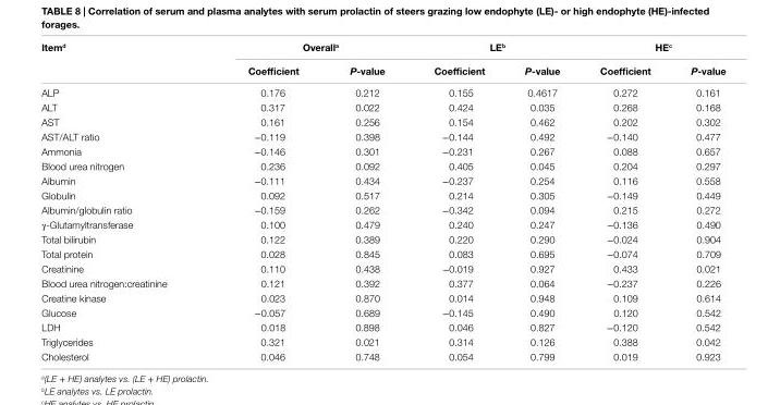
<table><thead><tr><td rowspan="2">item<sup>d</sup></td><td colspan="2">Overall<sup>a</sup></td><td colspan="2">le<sup>b</sup></td><td colspan="2">he<sup>c</sup></td></tr><tr><td>coefficient</td><td>P-value</td><td>coefficient</td><td>P-value</td><td>coefficient</td><td>P-value</td></tr></thead><tbody><tr><td>ALP</td><td>0.176</td><td>0.212</td><td>0.155</td><td>0.4617</td><td>0.272</td><td>0.161</td></tr><tr><td>ALT</td><td>0.317</td><td>0.022</td><td>0.424</td><td>0.035</td><td>0.268</td><td>0.168</td></tr><tr><td>AST</td><td>0.161</td><td>0.256</td><td>0.154</td><td>0.462</td><td>0.202</td><td>0.302</td></tr><tr><td>AST/ALT ratio</td><td>−0.119</td><td>0.398</td><td>−0.144</td><td>0.492</td><td>−0.140</td><td>0.477</td></tr><tr><td>Ammonia</td><td>−0.146</td><td>0.301</td><td>−0.231</td><td>0.267</td><td>0.088</td><td>0.657</td></tr><tr><td>Blood urea nitrogen</td><td>0.236</td><td>0.092</td><td>0.405</td><td>0.045</td><td>0.204</td><td>0.297</td></tr><tr><td>Albumin</td><td>−0.111</td><td>0.434</td><td>−0.237</td><td>0.254</td><td>0.116</td><td>0.558</td></tr><tr><td>Globulin</td><td>0.092</td><td>0.517</td><td>0.214</td><td>0.305</td><td>−0.149</td><td>0.449</td></tr><tr><td>Albumin/globulin ratio</td><td>−0.159</td><td>0.262</td><td>−0.342</td><td>0.094</td><td>0.215</td><td>0.272</td></tr><tr><td>γ-Glutamyltransferase</td><td>0.100</td><td>0.479</td><td>0.240</td><td>0.247</td><td>−0.136</td><td>0.490</td></tr><tr><td>Total bilirubin</td><td>0.122</td><td>0.389</td><td>0.220</td><td>0.290</td><td>−0.024</td><td>0.904</td></tr><tr><td>Total protein</td><td>0.028</td><td>0.845</td><td>0.083</td><td>0.695</td><td>−0.074</td><td>0.709</td></tr><tr><td>Creatinine</td><td>0.110</td><td>0.438</td><td>−0.019</td><td>0.927</td><td>0.433</td><td>0.021</td></tr><tr><td>Blood urea nitrogen:creatinine</td><td>0.121</td><td>0.392</td><td>0.377</td><td>0.064</td><td>−0.237</td><td>0.226</td></tr><tr><td>Creatine kinase</td><td>0.023</td><td>0.870</td><td>0.014</td><td>0.948</td><td>0.109</td><td>0.614</td></tr><tr><td>Glucose</td><td>−0.057</td><td>0.689</td><td>−0.145</td><td>0.490</td><td>0.120</td><td>0.542</td></tr><tr><td>LDH</td><td>0.018</td><td>0.898</td><td>0.046</td><td>0.827</td><td>−0.120</td><td>0.542</td></tr><tr><td>Triglycerides</td><td>0.321</td><td>0.021</td><td>0.314</td><td>0.126</td><td>0.388</td><td>0.042</td></tr><tr><td>Cholesterol</td><td>0.046</td><td>0.748</td><td>0.054</td><td>0.799</td><td>0.019</td><td>0.923</td></tr></tbody></table>